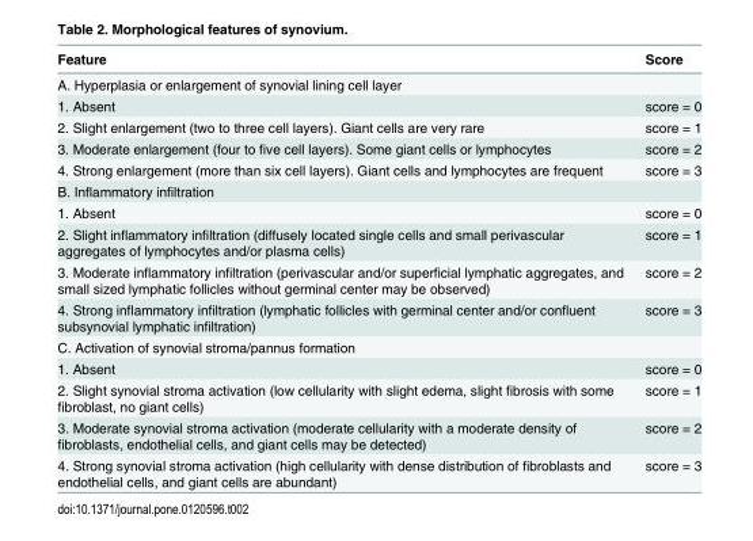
<table><thead><tr><td>Feature</td><td>Score</td></tr></thead><tbody><tr><td colspan="2">A. Hyperplasia or enlargement of synovial lining cell layer</td></tr><tr><td>1. Absent</td><td>score = 0</td></tr><tr><td>2. Slight enlargement (two to three cell layers). Giant cells are very rare</td><td>score = 1</td></tr><tr><td>3. Moderate enlargement (four to five cell layers). Some giant cells or lymphocytes</td><td>score = 2</td></tr><tr><td>4. Strong enlargement (more than six cell layers). Giant cells and lymphocytes are frequent</td><td>score = 3</td></tr><tr><td colspan="2">B. Inflammatory infiltration</td></tr><tr><td>1. Absent</td><td>score = 0</td></tr><tr><td>2. Slight inflammatory infiltration (diffusely located single cells and small perivascular aggregates of lymphocytes and/or plasma cells)</td><td>score = 1</td></tr><tr><td>3. Moderate inflammatory infiltration (perivascular and/or superficial lymphatic aggregates, and small sized lymphatic follicles without germinal center may be observed)</td><td>score = 2</td></tr><tr><td>4. Strong inflammatory infiltration (lymphatic follicles with germinal center and/or confluent subsynovial lymphatic infiltration)</td><td>score = 3</td></tr><tr><td colspan="2">C. Activation of synovial stroma/pannus formation</td></tr><tr><td>1. Absent</td><td>score = 0</td></tr><tr><td>2. Slight synovial stroma activation (low cellularity with slight edema, slight fibrosis with some fibroblast, no giant cells)</td><td>score = 1</td></tr><tr><td>3. Moderate synovial stroma activation (moderate cellularity with a moderate density of fibroblasts, endothelial cells, and giant cells may be detected)</td><td>score = 2</td></tr><tr><td>4. Strong synovial stroma activation (high cellularity with dense distribution of fibroblasts and endothelial cells, and giant cells are abundant)</td><td>score = 3</td></tr></tbody></table>